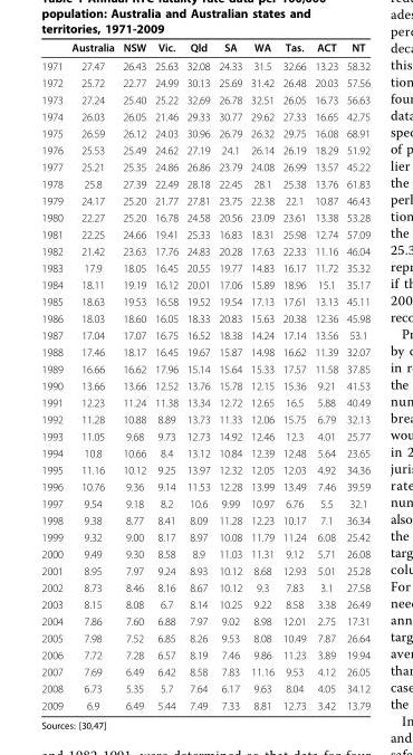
<table><thead><tr><td></td><td>Australia</td><td>NSW</td><td>Vic.</td><td>Qld</td><td>SA</td><td>WA</td><td>Tas.</td><td>ACT</td><td>NT</td></tr></thead><tbody><tr><td>1971</td><td>27.47</td><td>26.43</td><td>25.63</td><td>32.08</td><td>24.33</td><td>31.5</td><td>32.66</td><td>13.23</td><td>58.32</td></tr><tr><td>1972</td><td>25.72</td><td>22.77</td><td>24.99</td><td>30.13</td><td>25.69</td><td>31.42</td><td>26.48</td><td>20.03</td><td>57.56</td></tr><tr><td>1973</td><td>27.24</td><td>25.40</td><td>25.22</td><td>32.69</td><td>26.78</td><td>32.51</td><td>26.05</td><td>16.73</td><td>56.63</td></tr><tr><td>1974</td><td>26.03</td><td>26.05</td><td>21.46</td><td>29.33</td><td>30.77</td><td>29.62</td><td>27.33</td><td>16.65</td><td>42.75</td></tr><tr><td>1975</td><td>26.59</td><td>26.12</td><td>24.03</td><td>30.96</td><td>26.79</td><td>26.32</td><td>29.75</td><td>16.08</td><td>68.91</td></tr><tr><td>1976</td><td>25.53</td><td>25.49</td><td>24.62</td><td>27.19</td><td>24.1</td><td>26.14</td><td>26.19</td><td>18.29</td><td>51.92</td></tr><tr><td>1977</td><td>25.21</td><td>25.35</td><td>24.86</td><td>26.86</td><td>23.79</td><td>24.08</td><td>26.99</td><td>13.57</td><td>45.22</td></tr><tr><td>1978</td><td>25.8</td><td>27.39</td><td>22.49</td><td>28.18</td><td>22.45</td><td>28.1</td><td>25.38</td><td>13.76</td><td>61.83</td></tr><tr><td>1979</td><td>24.17</td><td>25.20</td><td>21.77</td><td>27.81</td><td>23.75</td><td>22.38</td><td>22.1</td><td>10.87</td><td>46.43</td></tr><tr><td>1980</td><td>22.27</td><td>25.20</td><td>16.78</td><td>24.58</td><td>20.56</td><td>23.09</td><td>23.61</td><td>13.38</td><td>53.28</td></tr><tr><td>1981</td><td>22.25</td><td>24.66</td><td>19.41</td><td>25.33</td><td>16.83</td><td>18.31</td><td>25.98</td><td>12.74</td><td>57.09</td></tr><tr><td>1982</td><td>21.42</td><td>23.63</td><td>17.76</td><td>24.83</td><td>20.28</td><td>17.63</td><td>22.33</td><td>11.16</td><td>46.04</td></tr><tr><td>1983</td><td>17.9</td><td>18.05</td><td>16.45</td><td>20.55</td><td>19.77</td><td>14.83</td><td>16.17</td><td>11.72</td><td>35.32</td></tr><tr><td>1984</td><td>18.11</td><td>19.19</td><td>16.12</td><td>20.01</td><td>17.06</td><td>15.89</td><td>18.96</td><td>15.1</td><td>35.17</td></tr><tr><td>1985</td><td>18.63</td><td>19.53</td><td>16.58</td><td>19.52</td><td>19.54</td><td>17.13</td><td>17.61</td><td>13.13</td><td>45.11</td></tr><tr><td>1986</td><td>18.03</td><td>18.60</td><td>16.05</td><td>18.33</td><td>20.83</td><td>15.63</td><td>20.38</td><td>12.36</td><td>45.98</td></tr><tr><td>1987</td><td>17.04</td><td>17.07</td><td>16.75</td><td>16.52</td><td>18.38</td><td>14.24</td><td>17.14</td><td>13.56</td><td>53.1</td></tr><tr><td>1988</td><td>17.46</td><td>18.17</td><td>16.45</td><td>19.67</td><td>15.87</td><td>14.98</td><td>16.62</td><td>11.39</td><td>32.07</td></tr><tr><td>1989</td><td>16.66</td><td>16.62</td><td>17.96</td><td>15.14</td><td>15.64</td><td>15.33</td><td>17.57</td><td>11.58</td><td>37.85</td></tr><tr><td>1990</td><td>13.66</td><td>13.66</td><td>12.52</td><td>13.76</td><td>15.78</td><td>12.15</td><td>15.36</td><td>9.21</td><td>41.53</td></tr><tr><td>1991</td><td>12.23</td><td>11.24</td><td>11.38</td><td>13.34</td><td>12.72</td><td>12.65</td><td>16.5</td><td>5.88</td><td>40.49</td></tr><tr><td>1992</td><td>11.28</td><td>10.88</td><td>8.89</td><td>13.73</td><td>11.33</td><td>12.06</td><td>15.75</td><td>6.79</td><td>32.13</td></tr><tr><td>1993</td><td>11.05</td><td>9.68</td><td>9.73</td><td>12.73</td><td>14.92</td><td>12.46</td><td>12.3</td><td>4.01</td><td>25.77</td></tr><tr><td>1994</td><td>10.8</td><td>10.66</td><td>8.4</td><td>13.12</td><td>10.84</td><td>12.39</td><td>12.48</td><td>5.64</td><td>23.65</td></tr><tr><td>1995</td><td>11.16</td><td>10.12</td><td>9.25</td><td>13.97</td><td>12.32</td><td>12.05</td><td>12.03</td><td>4.92</td><td>34.36</td></tr><tr><td>1996</td><td>10.76</td><td>9.36</td><td>9.14</td><td>11.53</td><td>12.28</td><td>13.99</td><td>13.49</td><td>7.46</td><td>39.59</td></tr><tr><td>1997</td><td>9.54</td><td>9.18</td><td>8.2</td><td>10.6</td><td>9.99</td><td>10.97</td><td>6.76</td><td>5.5</td><td>32.1</td></tr><tr><td>1998</td><td>9.38</td><td>8.77</td><td>8.41</td><td>8.09</td><td>11.28</td><td>12.23</td><td>10.17</td><td>7.1</td><td>36.34</td></tr><tr><td>1999</td><td>9.32</td><td>9.00</td><td>8.17</td><td>8.97</td><td>10.08</td><td>11.79</td><td>11.24</td><td>6.08</td><td>25.42</td></tr><tr><td>2000</td><td>9.49</td><td>9.30</td><td>8.58</td><td>8.9</td><td>11.03</td><td>11.31</td><td>9.12</td><td>5.71</td><td>26.08</td></tr><tr><td>2001</td><td>8.95</td><td>7.97</td><td>9.24</td><td>8.93</td><td>10.12</td><td>8.68</td><td>12.93</td><td>5.01</td><td>25.28</td></tr><tr><td>2002</td><td>8.73</td><td>8.46</td><td>8.16</td><td>8.67</td><td>10.12</td><td>9.3</td><td>7.83</td><td>3.1</td><td>27.58</td></tr><tr><td>2003</td><td>8.15</td><td>8.08</td><td>6.7</td><td>8.14</td><td>10.25</td><td>9.22</td><td>8.58</td><td>3.38</td><td>26.49</td></tr><tr><td>2004</td><td>7.86</td><td>7.60</td><td>6.88</td><td>7.97</td><td>9.02</td><td>8.98</td><td>12.01</td><td>2.75</td><td>17.31</td></tr><tr><td>2005</td><td>7.98</td><td>7.52</td><td>6.85</td><td>8.26</td><td>9.53</td><td>8.08</td><td>10.49</td><td>7.87</td><td>26.64</td></tr><tr><td>2006</td><td>7.72</td><td>7.28</td><td>6.57</td><td>8.19</td><td>7.46</td><td>9.86</td><td>11.23</td><td>3.89</td><td>19.94</td></tr><tr><td>2007</td><td>7.69</td><td>6.49</td><td>6.42</td><td>8.58</td><td>7.83</td><td>11.16</td><td>9.53</td><td>4.12</td><td>26.05</td></tr><tr><td>2008</td><td>6.73</td><td>5.35</td><td>5.7</td><td>7.64</td><td>6.17</td><td>9.63</td><td>8.04</td><td>4.05</td><td>34.12</td></tr><tr><td>2009</td><td>6.9</td><td>6.49</td><td>5.44</td><td>7.49</td><td>7.33</td><td>8.81</td><td>12.73</td><td>3.42</td><td>13.79</td></tr></tbody></table>